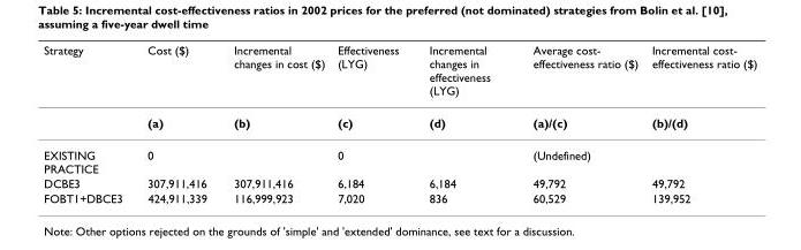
<table><thead><tr><td>Strategy</td><td>Cost ($)</td><td>Incremental changes in cost ($)</td><td>Effectiveness (LYG)</td><td>Incremental changes in effectiveness (LYG)</td><td>Average cost- effectiveness ratio ($)</td><td>Incremental cost- effectiveness ratio ($)</td></tr></thead><tbody><tr><td></td><td>(a)</td><td>(b)</td><td>(c)</td><td>(d)</td><td>(a)/(c)</td><td>(b)/(d)</td></tr><tr><td>EXISTING PRACTICE</td><td>0</td><td></td><td>0</td><td></td><td>(Undefined)</td><td></td></tr><tr><td>DCBE3</td><td>307,911,416</td><td>307,911,416</td><td>6,184</td><td>6,184</td><td>49,792</td><td>49,792</td></tr><tr><td>FOBT1+DBCE3</td><td>424,911,339</td><td>116,999,923</td><td>7,020</td><td>836</td><td>60,529</td><td>139,952</td></tr></tbody></table>